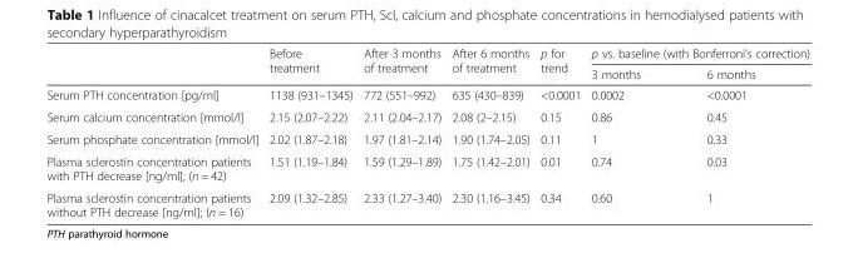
<table><thead><tr><td rowspan="2"></td><td rowspan="2">Before treatment</td><td rowspan="2">After 3 months of treatment</td><td rowspan="2">After 6 months of treatment</td><td rowspan="2">p for trend</td><td colspan="2">p vs. baseline (with Bonferroni’s correction)</td></tr><tr><td>3 months</td><td>6 months</td></tr></thead><tbody><tr><td>Serum PTH concentration [pg/ml]</td><td>1138 (931–1345)</td><td>772 (551–992)</td><td>635 (430–839)</td><td>&lt;0.0001</td><td>0.0002</td><td>&lt;0.0001</td></tr><tr><td>Serum calcium concentration [mmol/l]</td><td>2.15 (2.07–2.22)</td><td>2.11 (2.04–2.17)</td><td>2.08 (2–2.15)</td><td>0.15</td><td>0.86</td><td>0.45</td></tr><tr><td>Serum phosphate concentration [mmol/l]</td><td>2.02 (1.87–2.18)</td><td>1.97 (1.81–2.14)</td><td>1.90 (1.74–2.05)</td><td>0.11</td><td>1</td><td>0.33</td></tr><tr><td>Plasma sclerostin concentration patients with PTH decrease [ng/ml]; (n = 42)</td><td>1.51 (1.19–1.84)</td><td>1.59 (1.29–1.89)</td><td>1.75 (1.42–2.01)</td><td>0.01</td><td>0.74</td><td>0.03</td></tr><tr><td>Plasma sclerostin concentration patients without PTH decrease [ng/ml]; (n = 16)</td><td>2.09 (1.32–2.85)</td><td>2.33 (1.27–3.40)</td><td>2.30 (1.16–3.45)</td><td>0.34</td><td>0.60</td><td>1</td></tr></tbody></table>